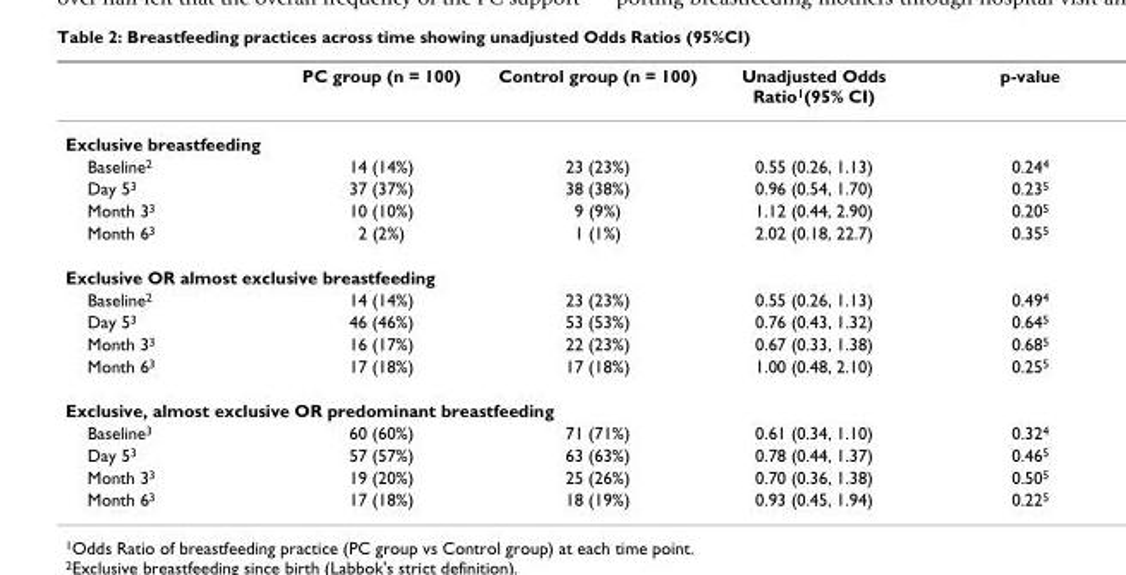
<table><thead><tr><td></td><td>PC group (n = 100)</td><td>Control group (n = 100)</td><td>Unadjusted Odds Ratio<sup>1</sup>(95% CI)</td><td>p-value</td></tr></thead><tbody><tr><td colspan="5">Exclusive breastfeeding</td></tr><tr><td>Baseline<sup>2</sup></td><td>14 (14%)</td><td>23 (23%)</td><td>0.55 (0.26, 1.13)</td><td>0.24<sup>4</sup></td></tr><tr><td>Day 5<sup>3</sup></td><td>37 (37%)</td><td>38 (38%)</td><td>0.96 (0.54, 1.70)</td><td>0.23<sup>5</sup></td></tr><tr><td>Month 3<sup>3</sup></td><td>10 (10%)</td><td>9 (9%)</td><td>1.12 (0.44, 2.90)</td><td>0.20<sup>5</sup></td></tr><tr><td>Month 6<sup>3</sup></td><td>2 (2%)</td><td>1 (1%)</td><td>2.02 (0.18, 22.7)</td><td>0.35<sup>5</sup></td></tr><tr><td colspan="5">Exclusive OR almost exclusive breastfeeding</td></tr><tr><td>Baseline<sup>2</sup></td><td>14 (14%)</td><td>23 (23%)</td><td>0.55 (0.26, 1.13)</td><td>0.49<sup>4</sup></td></tr><tr><td>Day 5<sup>3</sup></td><td>46 (46%)</td><td>53 (53%)</td><td>0.76 (0.43, 1.32)</td><td>0.64<sup>5</sup></td></tr><tr><td>Month 3<sup>3</sup></td><td>16 (17%)</td><td>22 (23%)</td><td>0.67 (0.33, 1.38)</td><td>0.68<sup>5</sup></td></tr><tr><td>Month 6<sup>3</sup></td><td>17 (18%)</td><td>17 (18%)</td><td>1.00 (0.48, 2.10)</td><td>0.25<sup>5</sup></td></tr><tr><td colspan="5">Exclusive, almost exclusive OR predominant breastfeeding</td></tr><tr><td>Baseline<sup>3</sup></td><td>60 (60%)</td><td>71 (71%)</td><td>0.61 (0.34, 1.10)</td><td>0.32<sup>4</sup></td></tr><tr><td>Day 5<sup>3</sup></td><td>57 (57%)</td><td>63 (63%)</td><td>0.78 (0.44, 1.37)</td><td>0.46<sup>5</sup></td></tr><tr><td>Month 3<sup>3</sup></td><td>19 (20%)</td><td>25 (26%)</td><td>0.70 (0.36, 1.38)</td><td>0.50<sup>5</sup></td></tr><tr><td>Month 6<sup>3</sup></td><td>17 (18%)</td><td>18 (19%)</td><td>0.93 (0.45, 1.94)</td><td>0.22<sup>5</sup></td></tr></tbody></table>